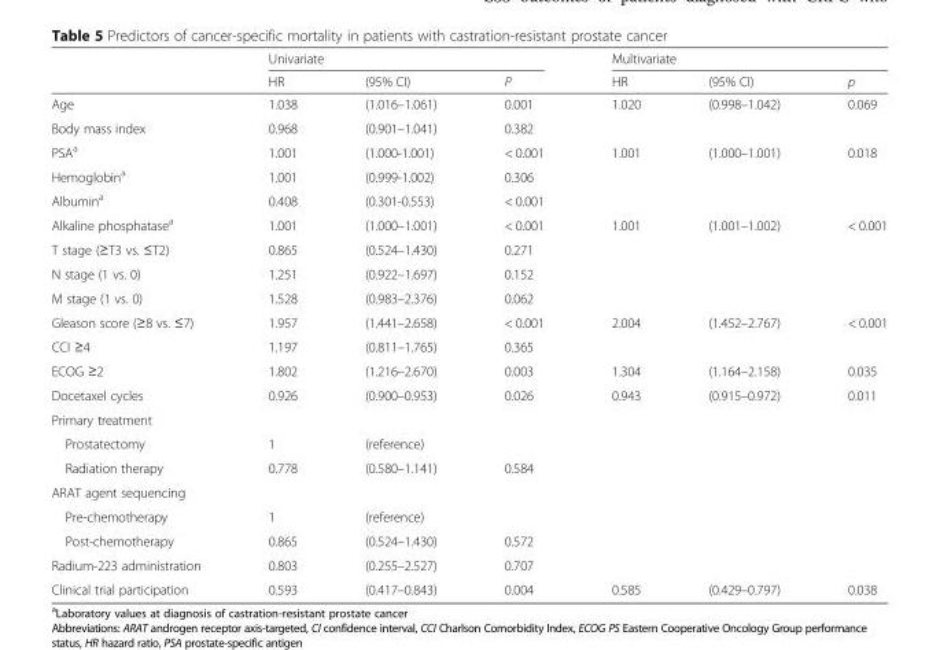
<table><thead><tr><td rowspan="2"></td><td colspan="3">Univariate</td><td colspan="3">Multivariate</td></tr><tr><td>HR</td><td>(95% CI)</td><td>P</td><td>HR</td><td>(95% CI)</td><td>p</td></tr></thead><tbody><tr><td>Age</td><td>1.038</td><td>(1.016–1.061)</td><td>0.001</td><td>1.020</td><td>(0.998–1.042)</td><td>0.069</td></tr><tr><td>Body mass index</td><td>0.968</td><td>(0.901–1.041)</td><td>0.382</td><td></td><td></td><td></td></tr><tr><td>PSA<sup>a</sup></td><td>1.001</td><td>(1.000-1.001)</td><td>&lt; 0.001</td><td>1.001</td><td>(1.000–1.001)</td><td>0.018</td></tr><tr><td>Hemoglobin<sup>a</sup></td><td>1.001</td><td>(0.999-1.002)</td><td>0.306</td><td></td><td></td><td></td></tr><tr><td>Albumin<sup>a</sup></td><td>0.408</td><td>(0.301-0.553)</td><td>&lt; 0.001</td><td></td><td></td><td></td></tr><tr><td>Alkaline phosphatase<sup>a</sup></td><td>1.001</td><td>(1.000–1.001)</td><td>&lt; 0.001</td><td>1.001</td><td>(1.001–1.002)</td><td>&lt; 0.001</td></tr><tr><td>T stage (≥T3 vs. ≤T2)</td><td>0.865</td><td>(0.524–1.430)</td><td>0.271</td><td></td><td></td><td></td></tr><tr><td>N stage (1 vs. 0)</td><td>1.251</td><td>(0.922–1.697)</td><td>0.152</td><td></td><td></td><td></td></tr><tr><td>M stage (1 vs. 0)</td><td>1.528</td><td>(0.983–2.376)</td><td>0.062</td><td></td><td></td><td></td></tr><tr><td>Gleason score (≥8 vs. ≤7)</td><td>1.957</td><td>(1.441–2.658)</td><td>&lt; 0.001</td><td>2.004</td><td>(1.452–2.767)</td><td>&lt; 0.001</td></tr><tr><td>CCI ≥4</td><td>1.197</td><td>(0.811–1.765)</td><td>0.365</td><td></td><td></td><td></td></tr><tr><td>ECOG ≥2</td><td>1.802</td><td>(1.216–2.670)</td><td>0.003</td><td>1.304</td><td>(1.164–2.158)</td><td>0.035</td></tr><tr><td>Docetaxel cycles</td><td>0.926</td><td>(0.900–0.953)</td><td>0.026</td><td>0.943</td><td>(0.915–0.972)</td><td>0.011</td></tr><tr><td colspan="7">Primary treatment</td></tr><tr><td>Prostatectomy</td><td>1</td><td>(reference)</td><td></td><td></td><td></td><td></td></tr><tr><td>Radiation therapy</td><td>0.778</td><td>(0.580–1.141)</td><td>0.584</td><td></td><td></td><td></td></tr><tr><td colspan="7">ARAT agent sequencing</td></tr><tr><td>Pre-chemotherapy</td><td>1</td><td>(reference)</td><td></td><td></td><td></td><td></td></tr><tr><td>Post-chemotherapy</td><td>0.865</td><td>(0.524–1.430)</td><td>0.572</td><td></td><td></td><td></td></tr><tr><td>Radium-223 administration</td><td>0.803</td><td>(0.255–2.527)</td><td>0.707</td><td></td><td></td><td></td></tr><tr><td>Clinical trial participation</td><td>0.593</td><td>(0.417–0.843)</td><td>0.004</td><td>0.585</td><td>(0.429–0.797)</td><td>0.038</td></tr></tbody></table>